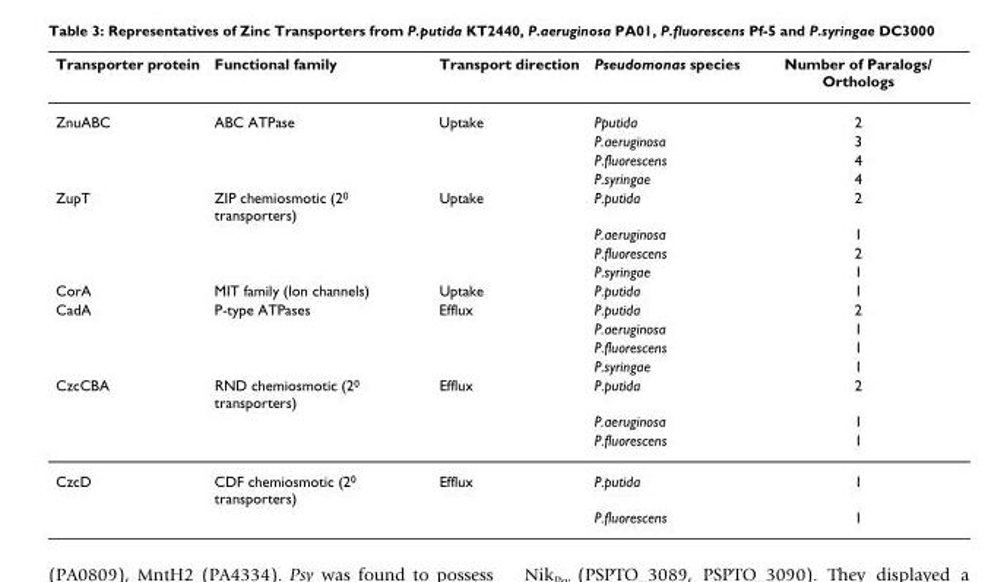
<table><thead><tr><td>Transporter protein</td><td>Functional family</td><td>Transport direction</td><td>Pseudomonas species</td><td>Number of Paralogs/ Orthologs</td></tr></thead><tbody><tr><td rowspan="4">ZnuABC</td><td>ABC ATPase</td><td>Uptake</td><td>Pputida</td><td>2</td></tr><tr><td></td><td></td><td>P.aeruginosa</td><td>3</td></tr><tr><td></td><td></td><td>P.fluorescens</td><td>4</td></tr><tr><td></td><td></td><td>P.syringae</td><td>4</td></tr><tr><td rowspan="4">ZupT</td><td>ZIP chemiosmotic (2<sup>0</sup> transporters)</td><td>Uptake</td><td>P.putida</td><td>2</td></tr><tr><td></td><td></td><td>P.aeruginosa</td><td>1</td></tr><tr><td></td><td></td><td>P.fluorescens</td><td>2</td></tr><tr><td></td><td></td><td>P.syringae</td><td>1</td></tr><tr><td>CorA</td><td>MIT family (Ion channels)</td><td>Uptake</td><td>P.putida</td><td>1</td></tr><tr><td rowspan="4">CadA</td><td>P-type ATPases</td><td>Efflux</td><td>P.putida</td><td>2</td></tr><tr><td></td><td></td><td>P.aeruginosa</td><td>1</td></tr><tr><td></td><td></td><td>P.fluorescens</td><td>1</td></tr><tr><td></td><td></td><td>P.syringae</td><td>1</td></tr><tr><td rowspan="3">CzcCBA</td><td>RND chemiosmotic (2<sup>0</sup> transporters)</td><td>Efflux</td><td>P.putida</td><td>2</td></tr><tr><td></td><td></td><td>P.aeruginosa</td><td>1</td></tr><tr><td></td><td></td><td>P.fluorescens</td><td>1</td></tr><tr><td rowspan="2">CzcD</td><td>CDF chemiosmotic (2<sup>0</sup> transporters)</td><td>Efflux</td><td>P.putida</td><td>1</td></tr><tr><td></td><td></td><td>P.fluorescens</td><td>1</td></tr></tbody></table>